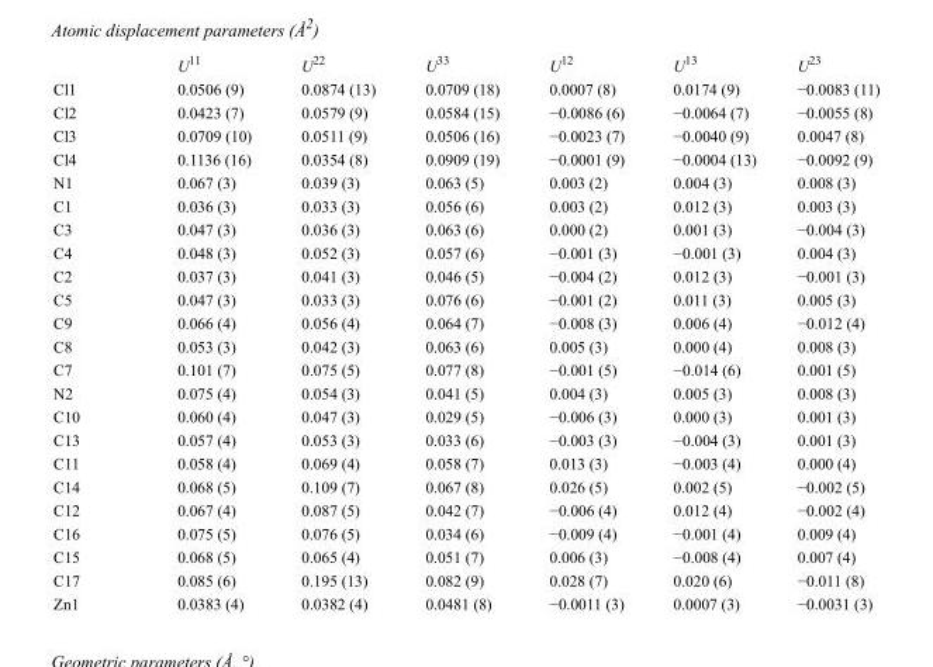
<table><thead><tr><td></td><td>U<sup>11</sup></td><td>U<sup>22</sup></td><td>U<sup>33</sup></td><td>U<sup>12</sup></td><td>U<sup>13</sup></td><td>U<sup>23</sup></td></tr></thead><tbody><tr><td>Cl1</td><td>0.0506 (9)</td><td>0.0874 (13)</td><td>0.0709 (18)</td><td>0.0007 (8)</td><td>0.0174 (9)</td><td>−0.0083 (11)</td></tr><tr><td>Cl2</td><td>0.0423 (7)</td><td>0.0579 (9)</td><td>0.0584 (15)</td><td>−0.0086 (6)</td><td>−0.0064 (7)</td><td>−0.0055 (8)</td></tr><tr><td>Cl3</td><td>0.0709 (10)</td><td>0.0511 (9)</td><td>0.0506 (16)</td><td>−0.0023 (7)</td><td>−0.0040 (9)</td><td>0.0047 (8)</td></tr><tr><td>Cl4</td><td>0.1136 (16)</td><td>0.0354 (8)</td><td>0.0909 (19)</td><td>−0.0001 (9)</td><td>−0.0004 (13)</td><td>−0.0092 (9)</td></tr><tr><td>N1</td><td>0.067 (3)</td><td>0.039 (3)</td><td>0.063 (5)</td><td>0.003 (2)</td><td>0.004 (3)</td><td>0.008 (3)</td></tr><tr><td>C1</td><td>0.036 (3)</td><td>0.033 (3)</td><td>0.056 (6)</td><td>0.003 (2)</td><td>0.012 (3)</td><td>0.003 (3)</td></tr><tr><td>C3</td><td>0.047 (3)</td><td>0.036 (3)</td><td>0.063 (6)</td><td>0.000 (2)</td><td>0.001 (3)</td><td>−0.004 (3)</td></tr><tr><td>C4</td><td>0.048 (3)</td><td>0.052 (3)</td><td>0.057 (6)</td><td>−0.001 (3)</td><td>−0.001 (3)</td><td>0.004 (3)</td></tr><tr><td>C2</td><td>0.037 (3)</td><td>0.041 (3)</td><td>0.046 (5)</td><td>−0.004 (2)</td><td>0.012 (3)</td><td>−0.001 (3)</td></tr><tr><td>C5</td><td>0.047 (3)</td><td>0.033 (3)</td><td>0.076 (6)</td><td>−0.001 (2)</td><td>0.011 (3)</td><td>0.005 (3)</td></tr><tr><td>C9</td><td>0.066 (4)</td><td>0.056 (4)</td><td>0.064 (7)</td><td>−0.008 (3)</td><td>0.006 (4)</td><td>−0.012 (4)</td></tr><tr><td>C8</td><td>0.053 (3)</td><td>0.042 (3)</td><td>0.063 (6)</td><td>0.005 (3)</td><td>0.000 (4)</td><td>0.008 (3)</td></tr><tr><td>C7</td><td>0.101 (7)</td><td>0.075 (5)</td><td>0.077 (8)</td><td>−0.001 (5)</td><td>−0.014 (6)</td><td>0.001 (5)</td></tr><tr><td>N2</td><td>0.075 (4)</td><td>0.054 (3)</td><td>0.041 (5)</td><td>0.004 (3)</td><td>0.005 (3)</td><td>0.008 (3)</td></tr><tr><td>C10</td><td>0.060 (4)</td><td>0.047 (3)</td><td>0.029 (5)</td><td>−0.006 (3)</td><td>0.000 (3)</td><td>0.001 (3)</td></tr><tr><td>C13</td><td>0.057 (4)</td><td>0.053 (3)</td><td>0.033 (6)</td><td>−0.003 (3)</td><td>−0.004 (3)</td><td>0.001 (3)</td></tr><tr><td>C11</td><td>0.058 (4)</td><td>0.069 (4)</td><td>0.058 (7)</td><td>0.013 (3)</td><td>−0.003 (4)</td><td>0.000 (4)</td></tr><tr><td>C14</td><td>0.068 (5)</td><td>0.109 (7)</td><td>0.067 (8)</td><td>0.026 (5)</td><td>0.002 (5)</td><td>−0.002 (5)</td></tr><tr><td>C12</td><td>0.067 (4)</td><td>0.087 (5)</td><td>0.042 (7)</td><td>−0.006 (4)</td><td>0.012 (4)</td><td>−0.002 (4)</td></tr><tr><td>C16</td><td>0.075 (5)</td><td>0.076 (5)</td><td>0.034 (6)</td><td>−0.009 (4)</td><td>−0.001 (4)</td><td>0.009 (4)</td></tr><tr><td>C15</td><td>0.068 (5)</td><td>0.065 (4)</td><td>0.051 (7)</td><td>0.006 (3)</td><td>−0.008 (4)</td><td>0.007 (4)</td></tr><tr><td>C17</td><td>0.085 (6)</td><td>0.195 (13)</td><td>0.082 (9)</td><td>0.028 (7)</td><td>0.020 (6)</td><td>−0.011 (8)</td></tr><tr><td>Zn1</td><td>0.0383 (4)</td><td>0.0382 (4)</td><td>0.0481 (8)</td><td>−0.0011 (3)</td><td>0.0007 (3)</td><td>−0.0031 (3)</td></tr></tbody></table>